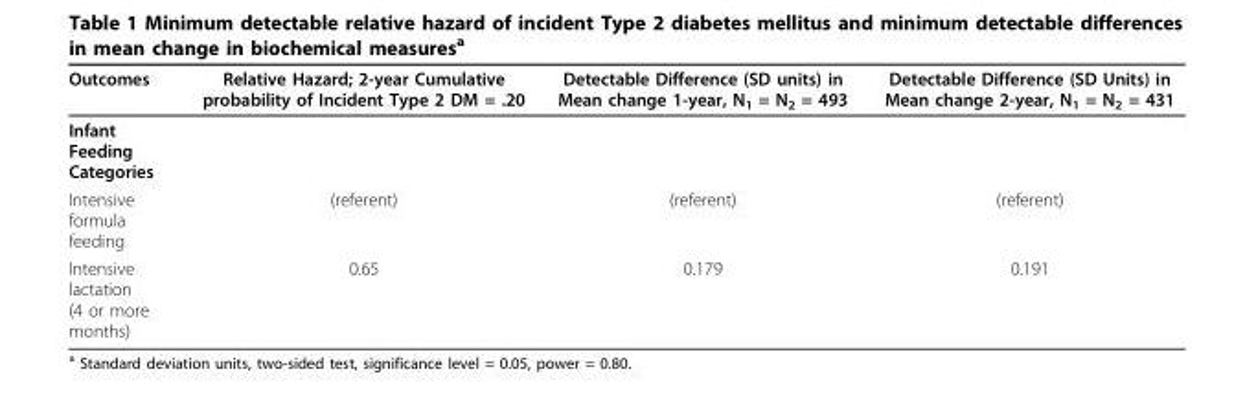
<table><thead><tr><td>Outcomes</td><td>Relative Hazard; 2-year Cumulative probability of Incident Type 2 DM = .20</td><td>Detectable Difference (SD units) in Mean change 1-year, N<sub>1</sub> = N<sub>2</sub> = 493</td><td>Detectable Difference (SD Units) in Mean change 2-year, N<sub>1</sub> = N<sub>2</sub> = 431</td></tr></thead><tbody><tr><td colspan="4">Infant Feeding Categories</td></tr><tr><td>Intensive formula feeding</td><td>(referent)</td><td>(referent)</td><td>(referent)</td></tr><tr><td>Intensive lactation (4 or more months)</td><td>0.65</td><td>0.179</td><td>0.191</td></tr></tbody></table>